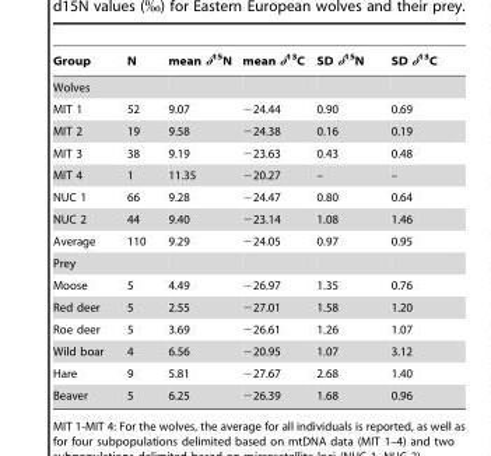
<table><thead><tr><td>Group</td><td>N</td><td>mean δ<sup>15</sup>N</td><td>mean δ<sup>13</sup>C</td><td>SD δ<sup>15</sup>N</td><td>SD δ<sup>13</sup>C</td></tr></thead><tbody><tr><td colspan="6">Wolves</td></tr><tr><td>MIT 1</td><td>52</td><td>9.07</td><td>−24.44</td><td>0.90</td><td>0.69</td></tr><tr><td>MIT 2</td><td>19</td><td>9.58</td><td>−24.38</td><td>0.16</td><td>0.19</td></tr><tr><td>MIT 3</td><td>38</td><td>9.19</td><td>−23.63</td><td>0.43</td><td>0.48</td></tr><tr><td>MIT 4</td><td>1</td><td>11.35</td><td>−20.27</td><td>–</td><td>–</td></tr><tr><td>NUC 1</td><td>66</td><td>9.28</td><td>−24.47</td><td>0.80</td><td>0.64</td></tr><tr><td>NUC 2</td><td>44</td><td>9.40</td><td>−23.14</td><td>1.08</td><td>1.46</td></tr><tr><td>Average</td><td>110</td><td>9.29</td><td>−24.05</td><td>0.97</td><td>0.95</td></tr><tr><td colspan="6">Prey</td></tr><tr><td>Moose</td><td>5</td><td>4.49</td><td>−26.97</td><td>1.35</td><td>0.76</td></tr><tr><td>Red deer</td><td>5</td><td>2.55</td><td>−27.01</td><td>1.58</td><td>1.20</td></tr><tr><td>Roe deer</td><td>5</td><td>3.69</td><td>−26.61</td><td>1.26</td><td>1.07</td></tr><tr><td>Wild boar</td><td>4</td><td>6.56</td><td>−20.95</td><td>1.07</td><td>3.12</td></tr><tr><td>Hare</td><td>9</td><td>5.81</td><td>−27.67</td><td>2.68</td><td>1.40</td></tr><tr><td>Beaver</td><td>5</td><td>6.25</td><td>−26.39</td><td>1.68</td><td>0.96</td></tr></tbody></table>